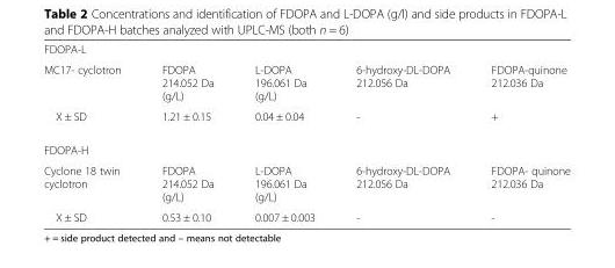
<table><tbody><tr><td colspan="5">FDOPA-L</td></tr><tr><td>MC17- cyclotron</td><td>FDOPA 214.052 Da (g/L)</td><td>L-DOPA 196.061 Da (g/L)</td><td>6-hydroxy-DL-DOPA 212.056 Da</td><td>FDOPA-quinone 212.036 Da</td></tr><tr><td>X ± SD</td><td>1.21 ± 0.15</td><td>0.04 ± 0.04</td><td>-</td><td>+</td></tr><tr><td colspan="5">FDOPA-H</td></tr><tr><td>Cyclone 18 twin cyclotron</td><td>FDOPA 214.052 Da (g/L)</td><td>L-DOPA 196.061 Da (g/L)</td><td>6-hydroxy-DL-DOPA 212.056 Da</td><td>FDOPA- quinone 212.036 Da</td></tr><tr><td>X ± SD</td><td>0.53 ± 0.10</td><td>0.007 ± 0.003</td><td>-</td><td>-</td></tr></tbody></table>